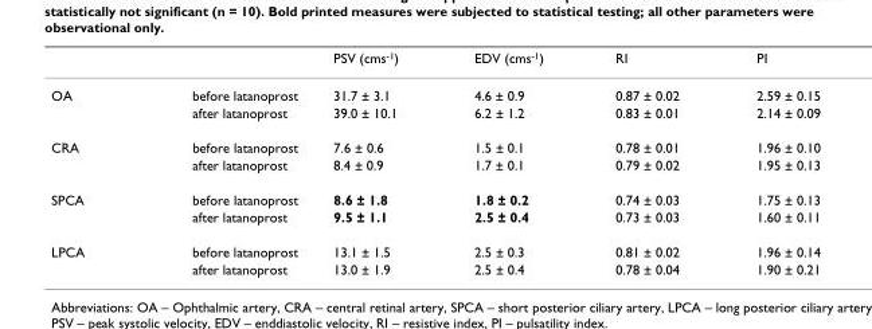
<table><thead><tr><td></td><td></td><td>PSV (cms-1)</td><td>EDV (cms-1)</td><td>RI</td><td>PI</td></tr></thead><tbody><tr><td rowspan="2">OA</td><td>before latanoprost</td><td>31.7 ± 3.1</td><td>4.6 ± 0.9</td><td>0.87 ± 0.02</td><td>2.59 ± 0.15</td></tr><tr><td>after latanoprost</td><td>39.0 ± 10.1</td><td>6.2 ± 1.2</td><td>0.83 ± 0.01</td><td>2.14 ± 0.09</td></tr><tr><td rowspan="2">CRA</td><td>before latanoprost</td><td>7.6 ± 0.6</td><td>1.5 ± 0.1</td><td>0.78 ± 0.01</td><td>1.96 ± 0.10</td></tr><tr><td>after latanoprost</td><td>8.4 ± 0.9</td><td>1.7 ± 0.1</td><td>0.79 ± 0.02</td><td>1.95 ± 0.13</td></tr><tr><td rowspan="2">SPCA</td><td>before latanoprost</td><td>8.6 ± 1.8</td><td>1.8 ± 0.2</td><td>0.74 ± 0.03</td><td>1.75 ± 0.13</td></tr><tr><td>after latanoprost</td><td>9.5 ± 1.1</td><td>2.5 ± 0.4</td><td>0.73 ± 0.03</td><td>1.60 ± 0.11</td></tr><tr><td rowspan="2">LPCA</td><td>before latanoprost</td><td>13.1 ± 1.5</td><td>2.5 ± 0.3</td><td>0.81 ± 0.02</td><td>1.96 ± 0.14</td></tr><tr><td>after latanoprost</td><td>13.0 ± 1.9</td><td>2.5 ± 0.4</td><td>0.78 ± 0.04</td><td>1.90 ± 0.21</td></tr></tbody></table>